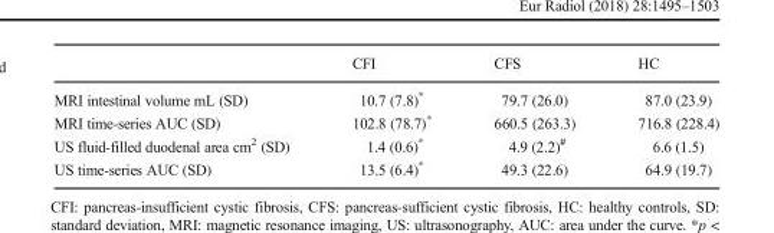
<table><thead><tr><td></td><td>CFI</td><td>CFS</td><td>HC</td></tr></thead><tbody><tr><td>MRI intestinal volume mL (SD)</td><td>10.7 (7.8)*</td><td>79.7 (26.0)</td><td>87.0 (23.9)</td></tr><tr><td>MRI time-series AUC (SD)</td><td>102.8 (78.7)*</td><td>660.5 (263.3)</td><td>716.8 (228.4)</td></tr><tr><td>US fluid-filled duodenal area cm<sup>2</sup> (SD)</td><td>1.4 (0.6)*</td><td>4.9 (2.2)<sup>#</sup></td><td>6.6 (1.5)</td></tr><tr><td>US time-series AUC (SD)</td><td>13.5 (6.4)*</td><td>49.3 (22.6)</td><td>64.9 (19.7)</td></tr></tbody></table>